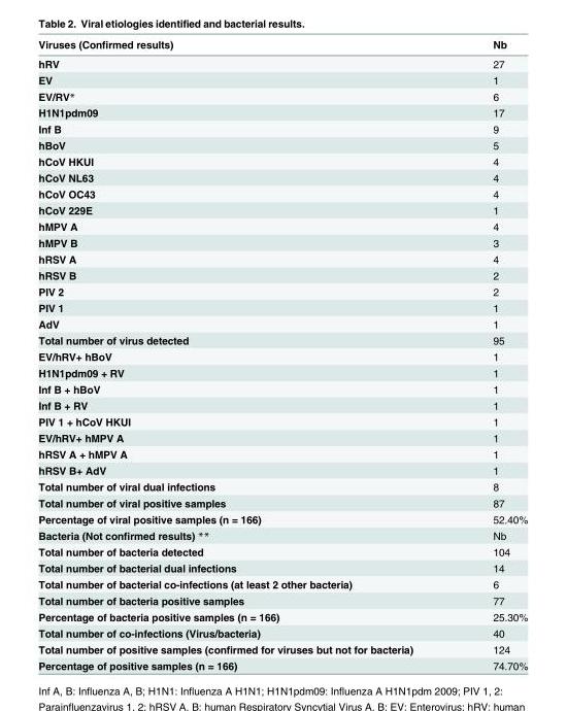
<table><thead><tr><td>Viruses (Confirmed results)</td><td>Nb</td></tr></thead><tbody><tr><td>hRV</td><td>27</td></tr><tr><td>EV</td><td>1</td></tr><tr><td>EV/RV*</td><td>6</td></tr><tr><td>H1N1pdm09</td><td>17</td></tr><tr><td>Inf B</td><td>9</td></tr><tr><td>hBoV</td><td>5</td></tr><tr><td>hCoV HKUI</td><td>4</td></tr><tr><td>hCoV NL63</td><td>4</td></tr><tr><td>hCoV OC43</td><td>4</td></tr><tr><td>hCoV 229E</td><td>1</td></tr><tr><td>hMPV A</td><td>4</td></tr><tr><td>hMPV B</td><td>3</td></tr><tr><td>hRSV A</td><td>4</td></tr><tr><td>hRSV B</td><td>2</td></tr><tr><td>PIV 2</td><td>2</td></tr><tr><td>PIV 1</td><td>1</td></tr><tr><td>AdV</td><td>1</td></tr><tr><td>Total number of virus detected</td><td>95</td></tr><tr><td>EV/hRV+ hBoV</td><td>1</td></tr><tr><td>H1N1pdm09 + RV</td><td>1</td></tr><tr><td>Inf B + hBoV</td><td>1</td></tr><tr><td>Inf B + RV</td><td>1</td></tr><tr><td>PIV 1 + hCoV HKUI</td><td>1</td></tr><tr><td>EV/hRV+ hMPV A</td><td>1</td></tr><tr><td>hRSV A + hMPV A</td><td>1</td></tr><tr><td>hRSV B+ AdV</td><td>1</td></tr><tr><td>Total number of viral dual infections</td><td>8</td></tr><tr><td>Total number of viral positive samples</td><td>87</td></tr><tr><td>Percentage of viral positive samples (n = 166)</td><td>52.40%</td></tr><tr><td>Bacteria (Not confirmed results) **</td><td>Nb</td></tr><tr><td>Total number of bacteria detected</td><td>104</td></tr><tr><td>Total number of bacterial dual infections</td><td>14</td></tr><tr><td>Total number of bacterial co-infections (at least 2 other bacteria)</td><td>6</td></tr><tr><td>Total number of bacteria positive samples</td><td>77</td></tr><tr><td>Percentage of bacteria positive samples (n = 166)</td><td>25.30%</td></tr><tr><td>Total number of co-infections (Virus/bacteria)</td><td>40</td></tr><tr><td>Total number of positive samples (confirmed for viruses but not for bacteria)</td><td>124</td></tr><tr><td>Percentage of positive samples (n = 166)</td><td>74.70%</td></tr></tbody></table>